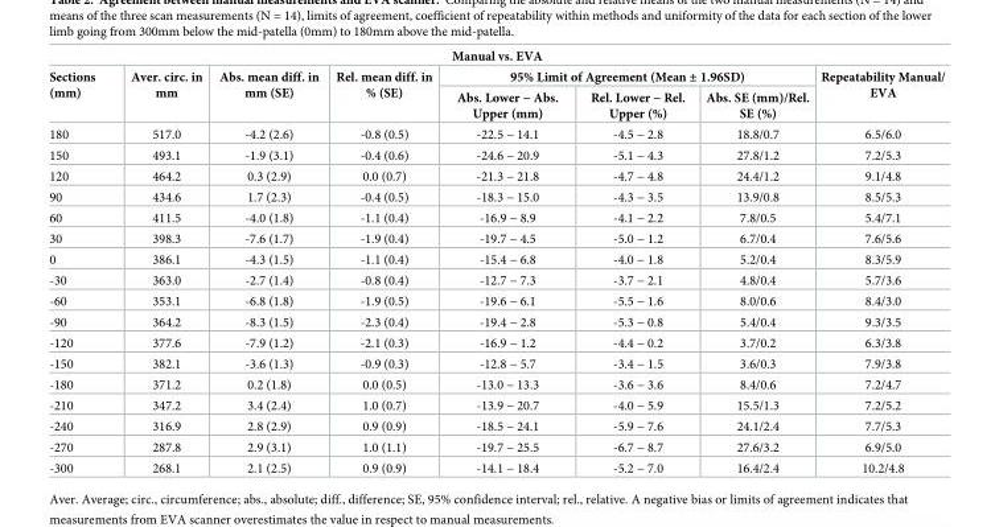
<table><thead><tr><td colspan="8">Manual vs. EVA</td></tr><tr><td rowspan="2">Sections (mm)</td><td rowspan="2">Aver. circ. in mm</td><td rowspan="2">Abs. mean diff. in mm (SE)</td><td rowspan="2">Rel. mean diff. in % (SE)</td><td colspan="3">95% Limit of Agreement (Mean ± 1.96SD)</td><td rowspan="2">Repeatability Manual/ EVA</td></tr><tr><td>Abs. Lower − Abs. Upper (mm)</td><td>Rel. Lower − Rel. Upper (%)</td><td>Abs. SE (mm)/Rel. SE (%)</td></tr></thead><tbody><tr><td>180</td><td>517.0</td><td>-4.2 (2.6)</td><td>-0.8 (0.5)</td><td>-22.5 − 14.1</td><td>-4.5 − 2.8</td><td>18.8/0.7</td><td>6.5/6.0</td></tr><tr><td>150</td><td>493.1</td><td>-1.9 (3.1)</td><td>-0.4 (0.6)</td><td>-24.6 − 20.9</td><td>-5.1 − 4.3</td><td>27.8/1.2</td><td>7.2/5.3</td></tr><tr><td>120</td><td>464.2</td><td>0.3 (2.9)</td><td>0.0 (0.7)</td><td>-21.3 − 21.8</td><td>-4.7 − 4.8</td><td>24.4/1.2</td><td>9.1/4.8</td></tr><tr><td>90</td><td>434.6</td><td>1.7 (2.3)</td><td>-0.4 (0.5)</td><td>-18.3 − 15.0</td><td>-4.3 − 3.5</td><td>13.9/0.8</td><td>8.5/5.3</td></tr><tr><td>60</td><td>411.5</td><td>-4.0 (1.8)</td><td>-1.1 (0.4)</td><td>-16.9 − 8.9</td><td>-4.1 − 2.2</td><td>7.8/0.5</td><td>5.4/7.1</td></tr><tr><td>30</td><td>398.3</td><td>-7.6 (1.7)</td><td>-1.9 (0.4)</td><td>-19.7 − 4.5</td><td>-5.0 − 1.2</td><td>6.7/0.4</td><td>7.6/5.6</td></tr><tr><td>0</td><td>386.1</td><td>-4.3 (1.5)</td><td>-1.1 (0.4)</td><td>-15.4 − 6.8</td><td>-4.0 − 1.8</td><td>5.2/0.4</td><td>8.3/5.9</td></tr><tr><td>-30</td><td>363.0</td><td>-2.7 (1.4)</td><td>-0.8 (0.4)</td><td>-12.7 − 7.3</td><td>-3.7 − 2.1</td><td>4.8/0.4</td><td>5.7/3.6</td></tr><tr><td>-60</td><td>353.1</td><td>-6.8 (1.8)</td><td>-1.9 (0.5)</td><td>-19.6 − 6.1</td><td>-5.5 − 1.6</td><td>8.0/0.6</td><td>8.4/3.0</td></tr><tr><td>-90</td><td>364.2</td><td>-8.3 (1.5)</td><td>-2.3 (0.4)</td><td>-19.4 − 2.8</td><td>-5.3 − 0.8</td><td>5.4/0.4</td><td>9.3/3.5</td></tr><tr><td>-120</td><td>377.6</td><td>-7.9 (1.2)</td><td>-2.1 (0.3)</td><td>-16.9 − 1.2</td><td>-4.4 − 0.2</td><td>3.7/0.2</td><td>6.3/3.8</td></tr><tr><td>-150</td><td>382.1</td><td>-3.6 (1.3)</td><td>-0.9 (0.3)</td><td>-12.8 − 5.7</td><td>-3.4 − 1.5</td><td>3.6/0.3</td><td>7.9/3.8</td></tr><tr><td>-180</td><td>371.2</td><td>0.2 (1.8)</td><td>0.0 (0.5)</td><td>-13.0 − 13.3</td><td>-3.6 − 3.6</td><td>8.4/0.6</td><td>7.2/4.7</td></tr><tr><td>-210</td><td>347.2</td><td>3.4 (2.4)</td><td>1.0 (0.7)</td><td>-13.9 − 20.7</td><td>-4.0 − 5.9</td><td>15.5/1.3</td><td>7.2/5.2</td></tr><tr><td>-240</td><td>316.9</td><td>2.8 (2.9)</td><td>0.9 (0.9)</td><td>-18.5 − 24.1</td><td>-5.9 − 7.6</td><td>24.1/2.4</td><td>7.7/5.3</td></tr><tr><td>-270</td><td>287.8</td><td>2.9 (3.1)</td><td>1.0 (1.1)</td><td>-19.7 − 25.5</td><td>-6.7 − 8.7</td><td>27.6/3.2</td><td>6.9/5.0</td></tr><tr><td>-300</td><td>268.1</td><td>2.1 (2.5)</td><td>0.9 (0.9)</td><td>-14.1 − 18.4</td><td>-5.2 − 7.0</td><td>16.4/2.4</td><td>10.2/4.8</td></tr></tbody></table>